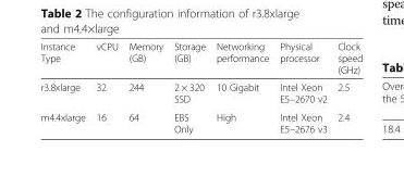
<table><thead><tr><td>Instance Type</td><td>vCPU</td><td>Memory (GB)</td><td>Storage (GB)</td><td>Networking performance</td><td>Physical processor</td><td>Clock speed (GHz)</td></tr></thead><tbody><tr><td>r3.8xlarge</td><td>32</td><td>244</td><td>2 × 320 SSD</td><td>10 Gigabit</td><td>Intel Xeon E5–2670 v2</td><td>2.5</td></tr><tr><td>m4.4xlarge</td><td>16</td><td>64</td><td>EBS Only</td><td>High</td><td>Intel Xeon E5–2676 v3</td><td>2.4</td></tr></tbody></table>